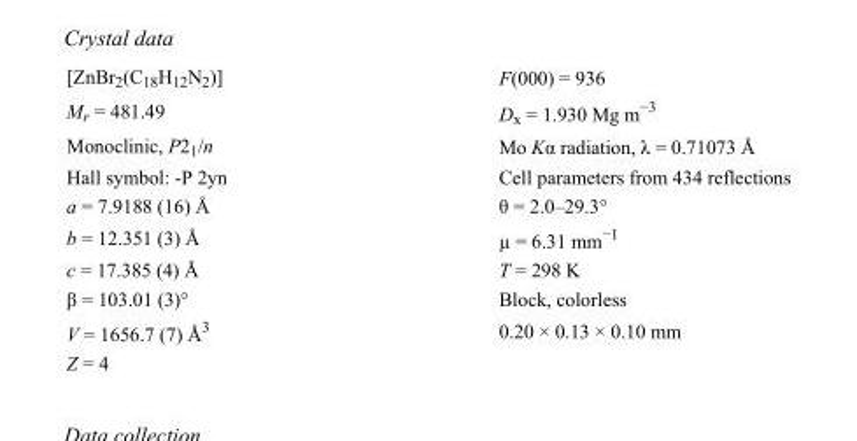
<table><tbody><tr><td>[ZnBr<sub>2</sub>(C<sub>18</sub>H<sub>12</sub>N<sub>2</sub>)]</td><td>F(000) = 936</td></tr><tr><td>M<sub>r</sub> = 481.49</td><td>D<sub>x</sub> = 1.930 Mg m<sup>−3</sup></td></tr><tr><td>Monoclinic, P2<sub>1</sub>/n</td><td>Mo Kα radiation, λ = 0.71073 Å</td></tr><tr><td>Hall symbol: -P 2yn</td><td>Cell parameters from 434 reflections</td></tr><tr><td>a = 7.9188 (16) Å</td><td>θ = 2.0–29.3°</td></tr><tr><td>b = 12.351 (3) Å</td><td>µ = 6.31 mm<sup>−1</sup></td></tr><tr><td>c = 17.385 (4) Å</td><td>T = 298 K</td></tr><tr><td>β = 103.01 (3)°</td><td>Block, colorless</td></tr><tr><td>V = 1656.7 (7) Å<sup>3</sup></td><td>0.20 × 0.13 × 0.10 mm</td></tr><tr><td>Z = 4</td><td></td></tr></tbody></table>